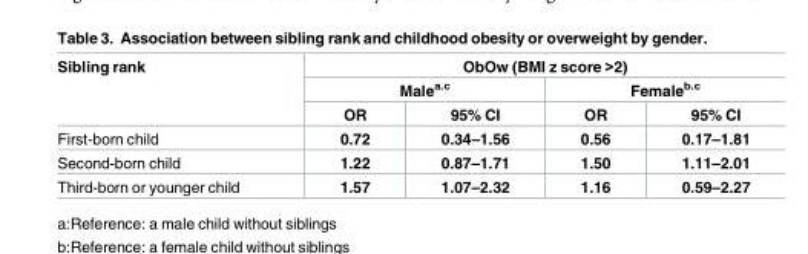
<table><thead><tr><td rowspan="3">Sibling rank</td><td colspan="4">ObOw (BMI z score &gt;2)</td></tr><tr><td colspan="2">Male<sup>a.c</sup></td><td colspan="2">Female<sup>b.c</sup></td></tr><tr><td>OR</td><td>95% CI</td><td>OR</td><td>95% CI</td></tr></thead><tbody><tr><td>First-born child</td><td>0.72</td><td>0.34–1.56</td><td>0.56</td><td>0.17–1.81</td></tr><tr><td>Second-born child</td><td>1.22</td><td>0.87–1.71</td><td>1.50</td><td>1.11–2.01</td></tr><tr><td>Third-born or younger child</td><td>1.57</td><td>1.07–2.32</td><td>1.16</td><td>0.59–2.27</td></tr></tbody></table>